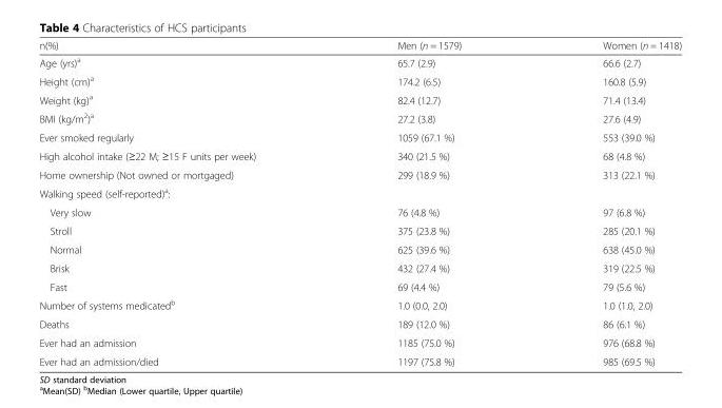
<table><thead><tr><td>n(%)</td><td>Men (n = 1579)</td><td>Women (n = 1418)</td></tr></thead><tbody><tr><td>Age (yrs)<sup>a</sup></td><td>65.7 (2.9)</td><td>66.6 (2.7)</td></tr><tr><td>Height (cm)<sup>a</sup></td><td>174.2 (6.5)</td><td>160.8 (5.9)</td></tr><tr><td>Weight (kg)<sup>a</sup></td><td>82.4 (12.7)</td><td>71.4 (13.4)</td></tr><tr><td>BMI (kg/m<sup>2</sup>)<sup>a</sup></td><td>27.2 (3.8)</td><td>27.6 (4.9)</td></tr><tr><td>Ever smoked regularly</td><td>1059 (67.1 %)</td><td>553 (39.0 %)</td></tr><tr><td>High alcohol intake (≥22 M; ≥15 F units per week)</td><td>340 (21.5 %)</td><td>68 (4.8 %)</td></tr><tr><td>Home ownership (Not owned or mortgaged)</td><td>299 (18.9 %)</td><td>313 (22.1 %)</td></tr><tr><td colspan="3">Walking speed (self-reported)<sup>a</sup>:</td></tr><tr><td>Very slow</td><td>76 (4.8 %)</td><td>97 (6.8 %)</td></tr><tr><td>Stroll</td><td>375 (23.8 %)</td><td>285 (20.1 %)</td></tr><tr><td>Normal</td><td>625 (39.6 %)</td><td>638 (45.0 %)</td></tr><tr><td>Brisk</td><td>432 (27.4 %)</td><td>319 (22.5 %)</td></tr><tr><td>Fast</td><td>69 (4.4 %)</td><td>79 (5.6 %)</td></tr><tr><td>Number of systems medicated<sup>b</sup></td><td>1.0 (0.0, 2.0)</td><td>1.0 (1.0, 2.0)</td></tr><tr><td>Deaths</td><td>189 (12.0 %)</td><td>86 (6.1 %)</td></tr><tr><td>Ever had an admission</td><td>1185 (75.0 %)</td><td>976 (68.8 %)</td></tr><tr><td>Ever had an admission/died</td><td>1197 (75.8 %)</td><td>985 (69.5 %)</td></tr></tbody></table>